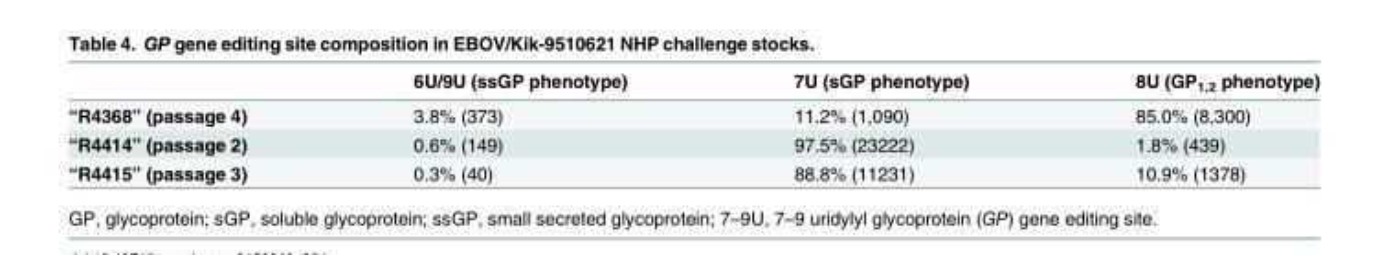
<table><thead><tr><td></td><td>6U/9U (ssGP phenotype)</td><td>7U (sGP phenotype)</td><td>8U (GP<sub>1,2</sub> phenotype)</td></tr></thead><tbody><tr><td>“R4368” (passage 4)</td><td>3.8% (373)</td><td>11.2% (1,090)</td><td>85.0% (8,300)</td></tr><tr><td>“R4414” (passage 2)</td><td>0.6% (149)</td><td>97.5% (23222)</td><td>1.8% (439)</td></tr><tr><td>“R4415” (passage 3)</td><td>0.3% (40)</td><td>88.8% (11231)</td><td>10.9% (1378)</td></tr></tbody></table>